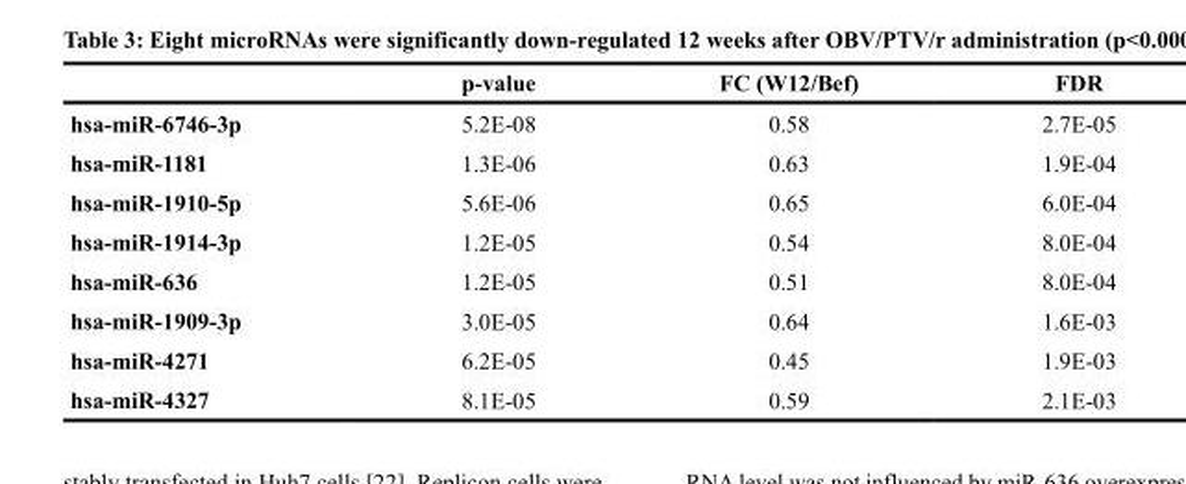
<table><thead><tr><td></td><td>p-value</td><td>FC (W12/Bef)</td><td>FDR</td></tr></thead><tbody><tr><td>hsa-miR-6746-3p</td><td>5.2E-08</td><td>0.58</td><td>2.7E-05</td></tr><tr><td>hsa-miR-1181</td><td>1.3E-06</td><td>0.63</td><td>1.9E-04</td></tr><tr><td>hsa-miR-1910-5p</td><td>5.6E-06</td><td>0.65</td><td>6.0E-04</td></tr><tr><td>hsa-miR-1914-3p</td><td>1.2E-05</td><td>0.54</td><td>8.0E-04</td></tr><tr><td>hsa-miR-636</td><td>1.2E-05</td><td>0.51</td><td>8.0E-04</td></tr><tr><td>hsa-miR-1909-3p</td><td>3.0E-05</td><td>0.64</td><td>1.6E-03</td></tr><tr><td>hsa-miR-4271</td><td>6.2E-05</td><td>0.45</td><td>1.9E-03</td></tr><tr><td>hsa-miR-4327</td><td>8.1E-05</td><td>0.59</td><td>2.1E-03</td></tr></tbody></table>